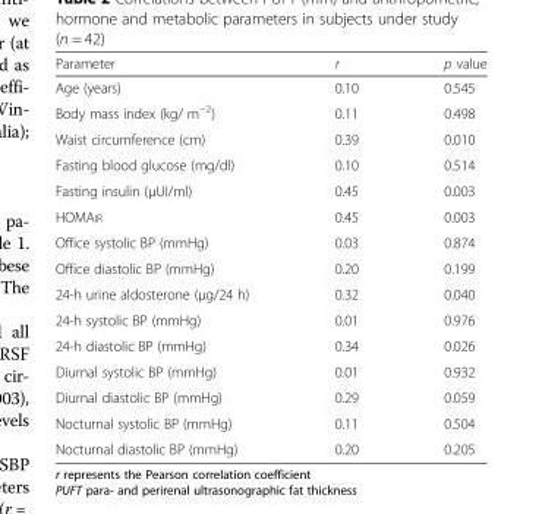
<table><thead><tr><td>Parameter</td><td>r</td><td>p value</td></tr></thead><tbody><tr><td>Age (years)</td><td>0.10</td><td>0.545</td></tr><tr><td>Body mass index (kg/ m<sup>−2</sup>)</td><td>0.11</td><td>0.498</td></tr><tr><td>Waist circumference (cm)</td><td>0.39</td><td>0.010</td></tr><tr><td>Fasting blood glucose (mg/dl)</td><td>0.10</td><td>0.514</td></tr><tr><td>Fasting insulin (μUI/ml)</td><td>0.45</td><td>0.003</td></tr><tr><td>HOMAIR</td><td>0.45</td><td>0.003</td></tr><tr><td>Office systolic BP (mmHg)</td><td>0.03</td><td>0.874</td></tr><tr><td>Office diastolic BP (mmHg)</td><td>0.20</td><td>0.199</td></tr><tr><td>24-h urine aldosterone (μg/24 h)</td><td>0.32</td><td>0.040</td></tr><tr><td>24-h systolic BP (mmHg)</td><td>0.01</td><td>0.976</td></tr><tr><td>24-h diastolic BP (mmHg)</td><td>0.34</td><td>0.026</td></tr><tr><td>Diurnal systolic BP (mmHg)</td><td>0.01</td><td>0.932</td></tr><tr><td>Diurnal diastolic BP (mmHg)</td><td>0.29</td><td>0.059</td></tr><tr><td>Nocturnal systolic BP (mmHg)</td><td>0.11</td><td>0.504</td></tr><tr><td>Nocturnal diastolic BP (mmHg)</td><td>0.20</td><td>0.205</td></tr></tbody></table>